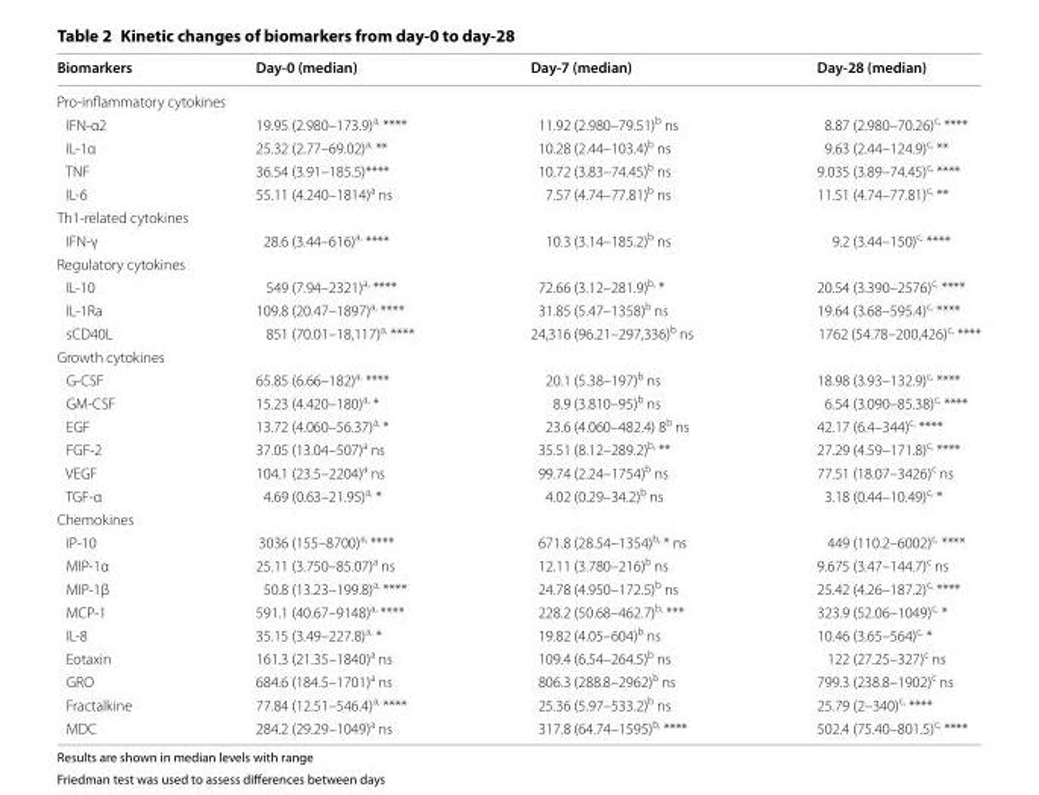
<table><thead><tr><td>Biomarkers</td><td>Day‑0 (median)</td><td>Day‑7 (median)</td><td>Day‑28 (median)</td></tr></thead><tbody><tr><td colspan="4">Pro‑inflammatory cytokines</td></tr><tr><td>IFN‑α2</td><td>19.95 (2.980–173.9)<sup>a,</sup> ****</td><td>11.92 (2.980–79.51)<sup>b</sup> ns</td><td>8.87 (2.980–70.26)<sup>c,</sup> ****</td></tr><tr><td>IL‑1α</td><td>25.32 (2.77–69.02)<sup>a,</sup> **</td><td>10.28 (2.44–103.4)<sup>b</sup> ns</td><td>9.63 (2.44–124.9)<sup>c,</sup> **</td></tr><tr><td>TNF</td><td>36.54 (3.91–185.5)****</td><td>10.72 (3.83–74.45)<sup>b</sup> ns</td><td>9.035 (3.89–74.45)<sup>c,</sup> ****</td></tr><tr><td>IL‑6</td><td>55.11 (4.240–1814)<sup>a</sup> ns</td><td>7.57 (4.74–77.81)<sup>b</sup> ns</td><td>11.51 (4.74–77.81)<sup>c,</sup> **</td></tr><tr><td colspan="4">Th1‑related cytokines</td></tr><tr><td>IFN‑γ</td><td>28.6 (3.44–616)<sup>a,</sup> ****</td><td>10.3 (3.14–185.2)<sup>b</sup> ns</td><td>9.2 (3.44–150)<sup>c,</sup> ****</td></tr><tr><td colspan="4">Regulatory cytokines</td></tr><tr><td>IL‑10</td><td>549 (7.94–2321)<sup>a,</sup> ****</td><td>72.66 (3.12–281.9)<sup>b,</sup> *</td><td>20.54 (3.390–2576)<sup>c,</sup> ****</td></tr><tr><td>IL‑1Ra</td><td>109.8 (20.47–1897)<sup>a,</sup> ****</td><td>31.85 (5.47–1358)<sup>b</sup> ns</td><td>19.64 (3.68–595.4)<sup>c,</sup> ****</td></tr><tr><td>sCD40L</td><td>851 (70.01–18,117)<sup>a,</sup> ****</td><td>24,316 (96.21–297,336)<sup>b</sup> ns</td><td>1762 (54.78–200,426)<sup>c,</sup> ****</td></tr><tr><td colspan="4">Growth cytokines</td></tr><tr><td>G‑CSF</td><td>65.85 (6.66–182)<sup>a,</sup> ****</td><td>20.1 (5.38–197)<sup>b</sup> ns</td><td>18.98 (3.93–132.9)<sup>c,</sup> ****</td></tr><tr><td>GM‑CSF</td><td>15.23 (4.420–180)<sup>a,</sup> *</td><td>8.9 (3.810–95)<sup>b</sup> ns</td><td>6.54 (3.090–85.38)<sup>c,</sup> ****</td></tr><tr><td>EGF</td><td>13.72 (4.060–56.37)<sup>a,</sup> *</td><td>23.6 (4.060–482.4) 8<sup>b</sup> ns</td><td>42.17 (6.4–344)<sup>c,</sup> ****</td></tr><tr><td>FGF‑2</td><td>37.05 (13.04–507)<sup>a</sup> ns</td><td>35.51 (8.12–289.2)<sup>b,</sup> **</td><td>27.29 (4.59–171.8)<sup>c,</sup> ****</td></tr><tr><td>VEGF</td><td>104.1 (23.5–2204)<sup>a</sup> ns</td><td>99.74 (2.24–1754)<sup>b</sup> ns</td><td>77.51 (18.07–3426)<sup>c</sup> ns</td></tr><tr><td>TGF‑α</td><td>4.69 (0.63–21.95)<sup>a,</sup> *</td><td>4.02 (0.29–34.2)<sup>b</sup> ns</td><td>3.18 (0.44–10.49)<sup>c,</sup> *</td></tr><tr><td colspan="4">Chemokines</td></tr><tr><td>IP‑10</td><td>3036 (155–8700)<sup>a,</sup> ****</td><td>671.8 (28.54–1354)<sup>b,</sup> * ns</td><td>449 (110.2–6002)<sup>c,</sup> ****</td></tr><tr><td>MIP‑1α</td><td>25.11 (3.750–85.07)<sup>a</sup> ns</td><td>12.11 (3.780–216)<sup>b</sup> ns</td><td>9.675 (3.47–144.7)<sup>c</sup> ns</td></tr><tr><td>MIP‑1β</td><td>50.8 (13.23–199.8)<sup>a,</sup> ****</td><td>24.78 (4.950–172.5)<sup>b</sup> ns</td><td>25.42 (4.26–187.2)<sup>c,</sup> ****</td></tr><tr><td>MCP‑1</td><td>591.1 (40.67–9148)<sup>a,</sup> ****</td><td>228.2 (50.68–462.7)<sup>b,</sup> ***</td><td>323.9 (52.06–1049)<sup>c,</sup> *</td></tr><tr><td>IL‑8</td><td>35.15 (3.49–227.8)<sup>a,</sup> *</td><td>19.82 (4.05–604)<sup>b</sup> ns</td><td>10.46 (3.65–564)<sup>c,</sup> *</td></tr><tr><td>Eotaxin</td><td>161.3 (21.35–1840)<sup>a</sup> ns</td><td>109.4 (6.54–264.5)<sup>b</sup> ns</td><td>122 (27.25–327)<sup>c</sup> ns</td></tr><tr><td>GRO</td><td>684.6 (184.5–1701)<sup>a</sup> ns</td><td>806.3 (288.8–2962)<sup>b</sup> ns</td><td>799.3 (238.8–1902)<sup>c</sup> ns</td></tr><tr><td>Fractalkine</td><td>77.84 (12.51–546.4)<sup>a,</sup> ****</td><td>25.36 (5.97–533.2)<sup>b</sup> ns</td><td>25.79 (2–340)<sup>c,</sup> ****</td></tr><tr><td>MDC</td><td>284.2 (29.29–1049)<sup>a</sup> ns</td><td>317.8 (64.74–1595)<sup>b,</sup> ****</td><td>502.4 (75.40–801.5)<sup>c,</sup> ****</td></tr></tbody></table>